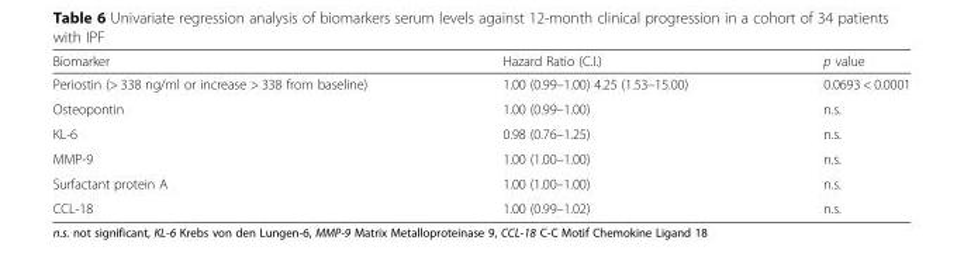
<table><thead><tr><td>Biomarker</td><td>Hazard Ratio (C.I.)</td><td>p value</td></tr></thead><tbody><tr><td>Periostin (&gt; 338 ng/ml or increase &gt; 338 from baseline)</td><td>1.00 (0.99–1.00) 4.25 (1.53–15.00)</td><td>0.0693 &lt; 0.0001</td></tr><tr><td>Osteopontin</td><td>1.00 (0.99–1.00)</td><td>n.s.</td></tr><tr><td>KL-6</td><td>0.98 (0.76–1.25)</td><td>n.s.</td></tr><tr><td>MMP-9</td><td>1.00 (1.00–1.00)</td><td>n.s.</td></tr><tr><td>Surfactant protein A</td><td>1.00 (1.00–1.00)</td><td>n.s.</td></tr><tr><td>CCL-18</td><td>1.00 (0.99–1.02)</td><td>n.s.</td></tr></tbody></table>